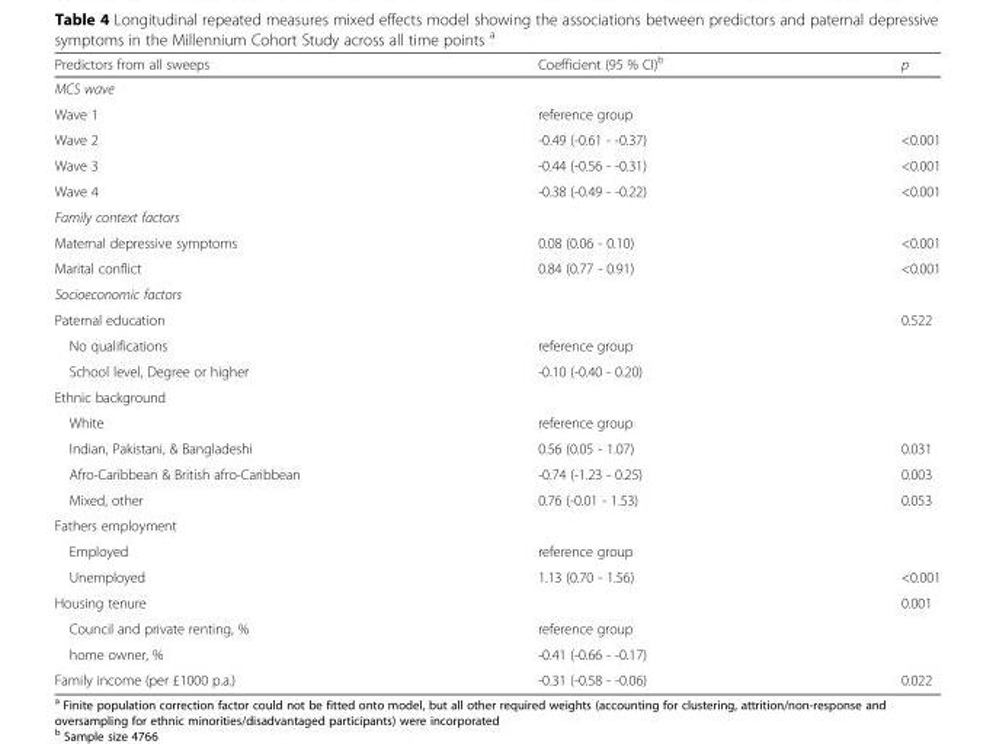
<table><thead><tr><td>Predictors from all sweeps</td><td>Coefficient (95 % CI)<sup>b</sup></td><td>p</td></tr></thead><tbody><tr><td colspan="3">MCS wave</td></tr><tr><td>Wave 1</td><td>reference group</td><td></td></tr><tr><td>Wave 2</td><td>-0.49 (-0.61 - -0.37)</td><td>&lt;0.001</td></tr><tr><td>Wave 3</td><td>-0.44 (-0.56 - -0.31)</td><td>&lt;0.001</td></tr><tr><td>Wave 4</td><td>-0.38 (-0.49 - -0.22)</td><td>&lt;0.001</td></tr><tr><td colspan="3">Family context factors</td></tr><tr><td>Maternal depressive symptoms</td><td>0.08 (0.06 - 0.10)</td><td>&lt;0.001</td></tr><tr><td>Marital conflict</td><td>0.84 (0.77 - 0.91)</td><td>&lt;0.001</td></tr><tr><td colspan="3">Socioeconomic factors</td></tr><tr><td>Paternal education</td><td></td><td>0.522</td></tr><tr><td>No qualifications</td><td>reference group</td><td></td></tr><tr><td>School level, Degree or higher</td><td>-0.10 (-0.40 - 0.20)</td><td></td></tr><tr><td colspan="3">Ethnic background</td></tr><tr><td>White</td><td>reference group</td><td></td></tr><tr><td>Indian, Pakistani, &amp; Bangladeshi</td><td>0.56 (0.05 - 1.07)</td><td>0.031</td></tr><tr><td>Afro-Caribbean &amp; British afro-Caribbean</td><td>-0.74 (-1.23 - 0.25)</td><td>0.003</td></tr><tr><td>Mixed, other</td><td>0.76 (-0.01 - 1.53)</td><td>0.053</td></tr><tr><td colspan="3">Fathers employment</td></tr><tr><td>Employed</td><td>reference group</td><td></td></tr><tr><td>Unemployed</td><td>1.13 (0.70 - 1.56)</td><td>&lt;0.001</td></tr><tr><td>Housing tenure</td><td></td><td>0.001</td></tr><tr><td>Council and private renting, %</td><td>reference group</td><td></td></tr><tr><td>home owner, %</td><td>-0.41 (-0.66 - -0.17)</td><td></td></tr><tr><td>Family income (per £1000 p.a.)</td><td>-0.31 (-0.58 - -0.06)</td><td>0.022</td></tr></tbody></table>